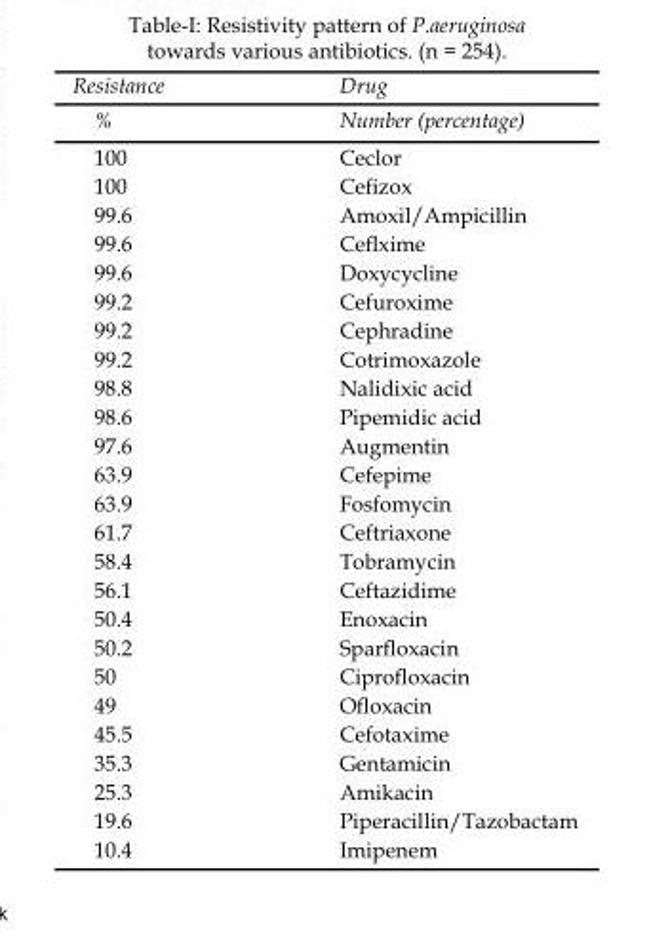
<table><thead><tr><td rowspan="2">Resistance %</td><td rowspan="2">Drug Number (percentage)</td></tr><tr></tr></thead><tbody><tr><td>100</td><td>Ceclor</td></tr><tr><td>100</td><td>Cefizox</td></tr><tr><td>99.6</td><td>Amoxil/Ampicillin</td></tr><tr><td>99.6</td><td>Ceflxime</td></tr><tr><td>99.6</td><td>Doxycycline</td></tr><tr><td>99.2</td><td>Cefuroxime</td></tr><tr><td>99.2</td><td>Cephradine</td></tr><tr><td>99.2</td><td>Cotrimoxazole</td></tr><tr><td>98.8</td><td>Nalidixic acid</td></tr><tr><td>98.6</td><td>Pipemidic acid</td></tr><tr><td>97.6</td><td>Augmentin</td></tr><tr><td>63.9</td><td>Cefepime</td></tr><tr><td>63.9</td><td>Fosfomycin</td></tr><tr><td>61.7</td><td>Ceftriaxone</td></tr><tr><td>58.4</td><td>Tobramycin</td></tr><tr><td>56.1</td><td>Ceftazidime</td></tr><tr><td>50.4</td><td>Enoxacin</td></tr><tr><td>50.2</td><td>Sparfloxacin</td></tr><tr><td>50</td><td>Ciprofloxacin</td></tr><tr><td>49</td><td>Ofloxacin</td></tr><tr><td>45.5</td><td>Cefotaxime</td></tr><tr><td>35.3</td><td>Gentamicin</td></tr><tr><td>25.3</td><td>Amikacin</td></tr><tr><td>19.6</td><td>Piperacillin/Tazobactam</td></tr><tr><td>10.4</td><td>Imipenem</td></tr></tbody></table>